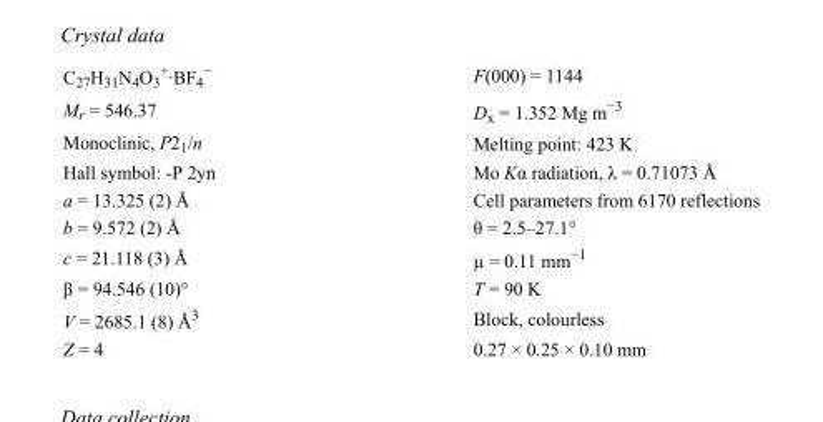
<table><tbody><tr><td>C<sub>27</sub>H<sub>31</sub>N<sub>4</sub>O<sub>3</sub> <sup>+</sup>·BF<sub>4</sub> <sup>−</sup></td><td>F(000) = 1144</td></tr><tr><td>M<sub>r</sub> = 546.37</td><td>D<sub>x</sub> = 1.352 Mg m<sup>−3</sup></td></tr><tr><td>Monoclinic, P2<sub>1</sub>/n</td><td>Melting point: 423 K</td></tr><tr><td>Hall symbol: -P 2yn</td><td>Mo Kα radiation, λ = 0.71073 Å</td></tr><tr><td>a = 13.325 (2) Å</td><td>Cell parameters from 6170 reflections</td></tr><tr><td>b = 9.572 (2) Å</td><td>θ = 2.5–27.1°</td></tr><tr><td>c = 21.118 (3) Å</td><td>µ = 0.11 mm<sup>−1</sup></td></tr><tr><td>β = 94.546 (10)°</td><td>T = 90 K</td></tr><tr><td>V = 2685.1 (8) Å<sup>3</sup></td><td>Block, colourless</td></tr><tr><td>Z = 4</td><td>0.27 × 0.25 × 0.10 mm</td></tr></tbody></table>